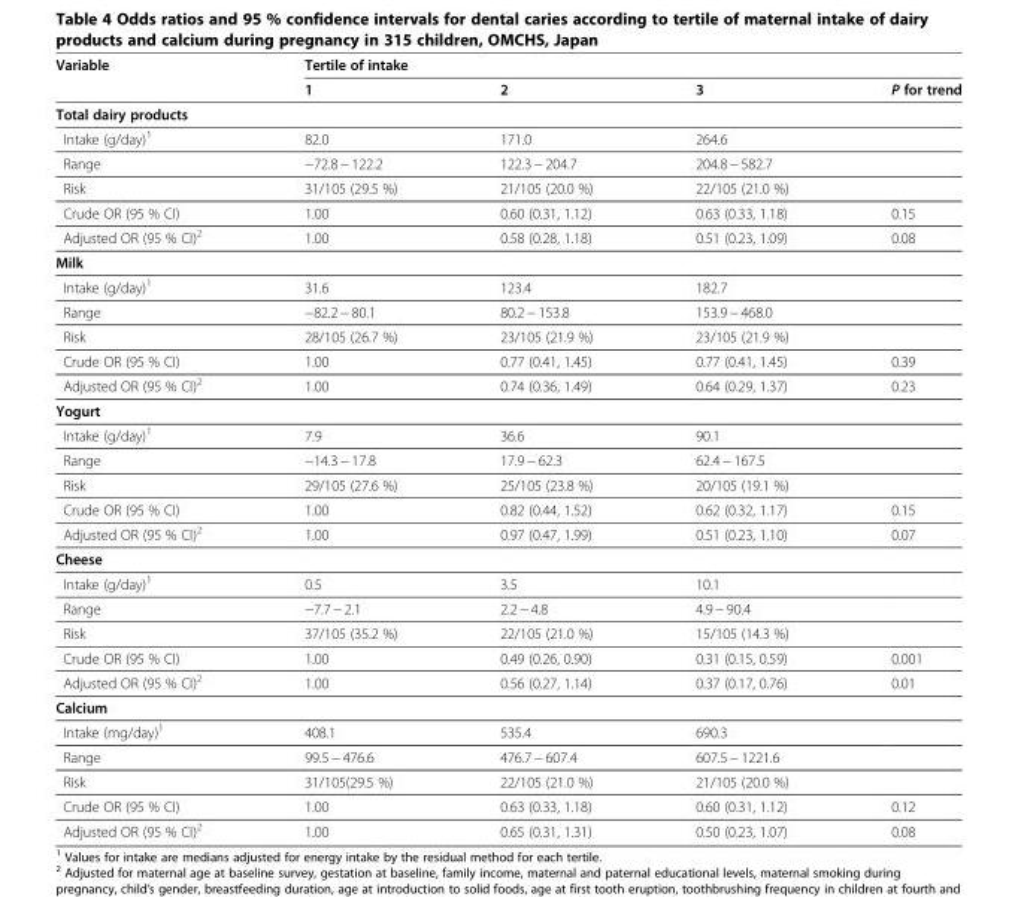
<table><thead><tr><td rowspan="2">Variable</td><td colspan="4">Tertile of intake</td></tr><tr><td>1</td><td>2</td><td>3</td><td>P for trend</td></tr></thead><tbody><tr><td colspan="5">Total dairy products</td></tr><tr><td>Intake (g/day)<sup>1</sup></td><td>82.0</td><td>171.0</td><td>264.6</td><td></td></tr><tr><td>Range</td><td>−72.8 − 122.2</td><td>122.3 − 204.7</td><td>204.8 − 582.7</td><td></td></tr><tr><td>Risk</td><td>31/105 (29.5 %)</td><td>21/105 (20.0 %)</td><td>22/105 (21.0 %)</td><td></td></tr><tr><td>Crude OR (95 % CI)</td><td>1.00</td><td>0.60 (0.31, 1.12)</td><td>0.63 (0.33, 1.18)</td><td>0.15</td></tr><tr><td>Adjusted OR (95 % CI)<sup>2</sup></td><td>1.00</td><td>0.58 (0.28, 1.18)</td><td>0.51 (0.23, 1.09)</td><td>0.08</td></tr><tr><td colspan="5">Milk</td></tr><tr><td>Intake (g/day)<sup>1</sup></td><td>31.6</td><td>123.4</td><td>182.7</td><td></td></tr><tr><td>Range</td><td>−82.2 − 80.1</td><td>80.2 − 153.8</td><td>153.9 − 468.0</td><td></td></tr><tr><td>Risk</td><td>28/105 (26.7 %)</td><td>23/105 (21.9 %)</td><td>23/105 (21.9 %)</td><td></td></tr><tr><td>Crude OR (95 % CI)</td><td>1.00</td><td>0.77 (0.41, 1.45)</td><td>0.77 (0.41, 1.45)</td><td>0.39</td></tr><tr><td>Adjusted OR (95 % CI)<sup>2</sup></td><td>1.00</td><td>0.74 (0.36, 1.49)</td><td>0.64 (0.29, 1.37)</td><td>0.23</td></tr><tr><td colspan="5">Yogurt</td></tr><tr><td>Intake (g/day)<sup>1</sup></td><td>7.9</td><td>36.6</td><td>90.1</td><td></td></tr><tr><td>Range</td><td>−14.3 − 17.8</td><td>17.9 − 62.3</td><td>62.4 − 167.5</td><td></td></tr><tr><td>Risk</td><td>29/105 (27.6 %)</td><td>25/105 (23.8 %)</td><td>20/105 (19.1 %)</td><td></td></tr><tr><td>Crude OR (95 % CI)</td><td>1.00</td><td>0.82 (0.44, 1.52)</td><td>0.62 (0.32, 1.17)</td><td>0.15</td></tr><tr><td>Adjusted OR (95 % CI)<sup>2</sup></td><td>1.00</td><td>0.97 (0.47, 1.99)</td><td>0.51 (0.23, 1.10)</td><td>0.07</td></tr><tr><td colspan="5">Cheese</td></tr><tr><td>Intake (g/day)<sup>1</sup></td><td>0.5</td><td>3.5</td><td>10.1</td><td></td></tr><tr><td>Range</td><td>−7.7 − 2.1</td><td>2.2 − 4.8</td><td>4.9 − 90.4</td><td></td></tr><tr><td>Risk</td><td>37/105 (35.2 %)</td><td>22/105 (21.0 %)</td><td>15/105 (14.3 %)</td><td></td></tr><tr><td>Crude OR (95 % CI)</td><td>1.00</td><td>0.49 (0.26, 0.90)</td><td>0.31 (0.15, 0.59)</td><td>0.001</td></tr><tr><td>Adjusted OR (95 % CI)<sup>2</sup></td><td>1.00</td><td>0.56 (0.27, 1.14)</td><td>0.37 (0.17, 0.76)</td><td>0.01</td></tr><tr><td colspan="5">Calcium</td></tr><tr><td>Intake (mg/day)<sup>1</sup></td><td>408.1</td><td>535.4</td><td>690.3</td><td></td></tr><tr><td>Range</td><td>99.5 − 476.6</td><td>476.7 − 607.4</td><td>607.5 − 1221.6</td><td></td></tr><tr><td>Risk</td><td>31/105(29.5 %)</td><td>22/105 (21.0 %)</td><td>21/105 (20.0 %)</td><td></td></tr><tr><td>Crude OR (95 % CI)</td><td>1.00</td><td>0.63 (0.33, 1.18)</td><td>0.60 (0.31, 1.12)</td><td>0.12</td></tr><tr><td>Adjusted OR (95 % CI)<sup>2</sup></td><td>1.00</td><td>0.65 (0.31, 1.31)</td><td>0.50 (0.23, 1.07)</td><td>0.08</td></tr></tbody></table>